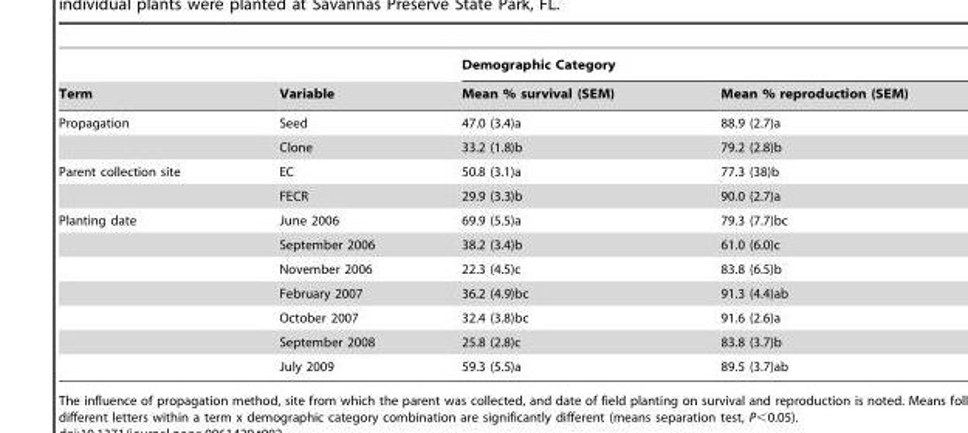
<table><thead><tr><td rowspan="2">Term</td><td rowspan="2">Variable</td><td colspan="2">Demographic Category</td></tr><tr><td>Mean % survival (SEM)</td><td>Mean % reproduction (SEM)</td></tr></thead><tbody><tr><td rowspan="2">Propagation</td><td>Seed</td><td>47.0 (3.4)a</td><td>88.9 (2.7)a</td></tr><tr><td>Clone</td><td>33.2 (1.8)b</td><td>79.2 (2.8)b</td></tr><tr><td rowspan="2">Parent collection site</td><td>EC</td><td>50.8 (3.1)a</td><td>77.3 (38)b</td></tr><tr><td>FECR</td><td>29.9 (3.3)b</td><td>90.0 (2.7)a</td></tr><tr><td rowspan="7">Planting date</td><td>June 2006</td><td>69.9 (5.5)a</td><td>79.3 (7.7)bc</td></tr><tr><td>September 2006</td><td>38.2 (3.4)b</td><td>61.0 (6.0)c</td></tr><tr><td>November 2006</td><td>22.3 (4.5)c</td><td>83.8 (6.5)b</td></tr><tr><td>February 2007</td><td>36.2 (4.9)bc</td><td>91.3 (4.4)ab</td></tr><tr><td>October 2007</td><td>32.4 (3.8)bc</td><td>91.6 (2.6)a</td></tr><tr><td>September 2008</td><td>25.8 (2.8)c</td><td>83.8 (3.7)b</td></tr><tr><td>July 2009</td><td>59.3 (5.5)a</td><td>89.5 (3.7)ab</td></tr></tbody></table>